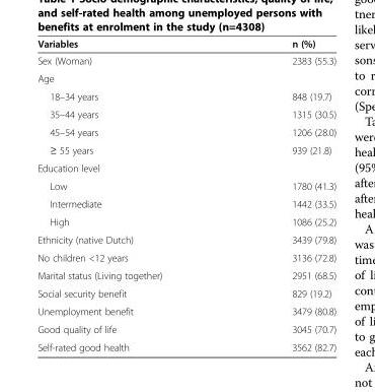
<table><thead><tr><td>Variables</td><td>n (%)</td></tr></thead><tbody><tr><td>Sex (Woman)</td><td>2383 (55.3)</td></tr><tr><td colspan="2">Age</td></tr><tr><td>18–34 years</td><td>848 (19.7)</td></tr><tr><td>35–44 years</td><td>1315 (30.5)</td></tr><tr><td>45–54 years</td><td>1206 (28.0)</td></tr><tr><td>≥ 55 years</td><td>939 (21.8)</td></tr><tr><td colspan="2">Education level</td></tr><tr><td>Low</td><td>1780 (41.3)</td></tr><tr><td>Intermediate</td><td>1442 (33.5)</td></tr><tr><td>High</td><td>1086 (25.2)</td></tr><tr><td>Ethnicity (native Dutch)</td><td>3439 (79.8)</td></tr><tr><td>No children &lt;12 years</td><td>3136 (72.8)</td></tr><tr><td>Marital status (Living together)</td><td>2951 (68.5)</td></tr><tr><td>Social security benefit</td><td>829 (19.2)</td></tr><tr><td>Unemployment benefit</td><td>3479 (80.8)</td></tr><tr><td>Good quality of life</td><td>3045 (70.7)</td></tr><tr><td>Self-rated good health</td><td>3562 (82.7)</td></tr></tbody></table>